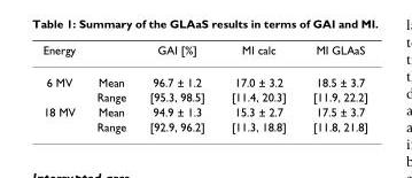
<table><thead><tr><td>Energy</td><td></td><td>GAI [%]</td><td>MI calc</td><td>MI GLAaS</td></tr></thead><tbody><tr><td rowspan="2">6 MV</td><td>Mean</td><td>96.7 ± 1.2</td><td>17.0 ± 3.2</td><td>18.5 ± 3.7</td></tr><tr><td>Range</td><td>[95.3, 98.5]</td><td>[11.4, 20.3]</td><td>[11.9, 22.2]</td></tr><tr><td rowspan="2">18 MV</td><td>Mean</td><td>94.9 ± 1.3</td><td>15.3 ± 2.7</td><td>17.5 ± 3.7</td></tr><tr><td>Range</td><td>[92.9, 96.2]</td><td>[11.3, 18.8]</td><td>[11.8, 21.8]</td></tr></tbody></table>